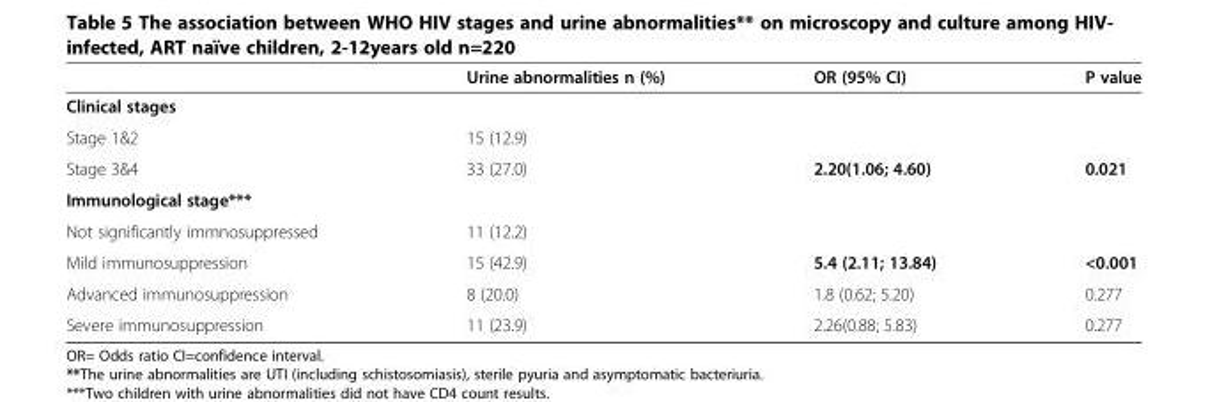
<table><thead><tr><td></td><td>Urine abnormalities n (%)</td><td>OR (95% CI)</td><td>P value</td></tr></thead><tbody><tr><td colspan="4">Clinical stages</td></tr><tr><td>Stage 1&amp;2</td><td>15 (12.9)</td><td></td><td></td></tr><tr><td>Stage 3&amp;4</td><td>33 (27.0)</td><td>2.20(1.06; 4.60)</td><td>0.021</td></tr><tr><td colspan="4">Immunological stage***</td></tr><tr><td>Not significantly immnosuppressed</td><td>11 (12.2)</td><td></td><td></td></tr><tr><td>Mild immunosuppression</td><td>15 (42.9)</td><td>5.4 (2.11; 13.84)</td><td>&lt;0.001</td></tr><tr><td>Advanced immunosuppression</td><td>8 (20.0)</td><td>1.8 (0.62; 5.20)</td><td>0.277</td></tr><tr><td>Severe immunosuppression</td><td>11 (23.9)</td><td>2.26(0.88; 5.83)</td><td>0.277</td></tr></tbody></table>